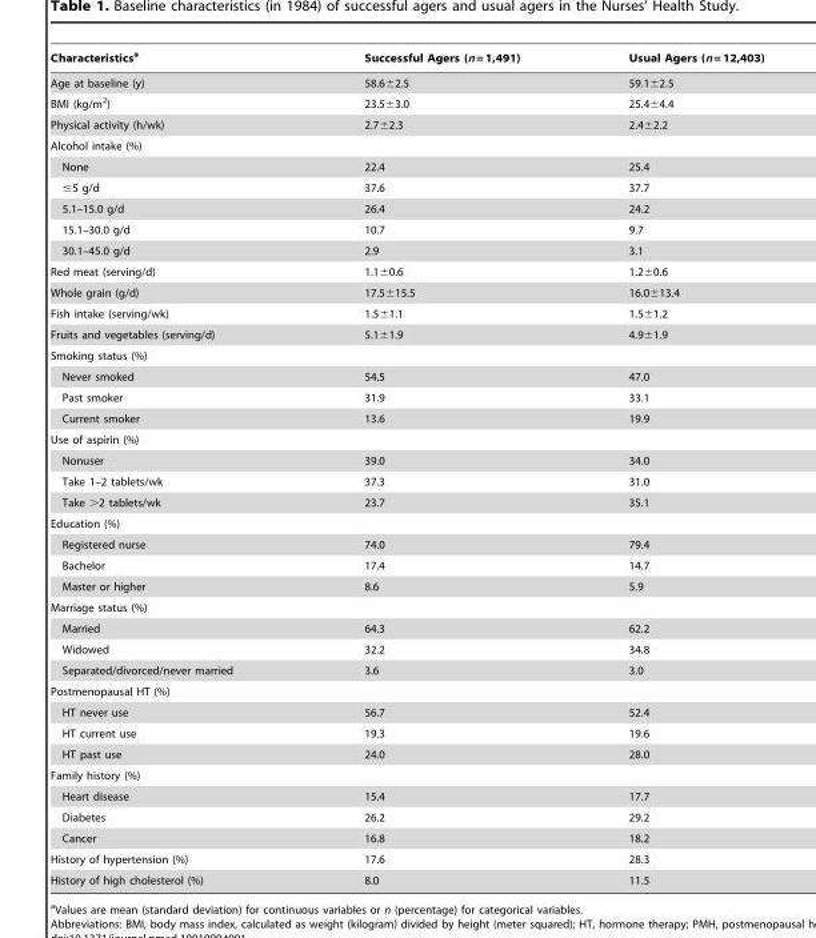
<table><thead><tr><td>Characteristics<sup>a</sup></td><td>Successful Agers (n = 1,491)</td><td>Usual Agers (n = 12,403)</td></tr></thead><tbody><tr><td>Age at baseline (y)</td><td>58.6±2.5</td><td>59.1±2.5</td></tr><tr><td>BMI (kg/m<sup>2</sup>)</td><td>23.5±3.0</td><td>25.4±4.4</td></tr><tr><td>Physical activity (h/wk)</td><td>2.7±2.3</td><td>2.4±2.2</td></tr><tr><td colspan="3">Alcohol intake (%)</td></tr><tr><td>None</td><td>22.4</td><td>25.4</td></tr><tr><td>≤5 g/d</td><td>37.6</td><td>37.7</td></tr><tr><td>5.1–15.0 g/d</td><td>26.4</td><td>24.2</td></tr><tr><td>15.1–30.0 g/d</td><td>10.7</td><td>9.7</td></tr><tr><td>30.1–45.0 g/d</td><td>2.9</td><td>3.1</td></tr><tr><td>Red meat (serving/d)</td><td>1.1±0.6</td><td>1.2±0.6</td></tr><tr><td>Whole grain (g/d)</td><td>17.5±15.5</td><td>16.0±13.4</td></tr><tr><td>Fish intake (serving/wk)</td><td>1.5±1.1</td><td>1.5±1.2</td></tr><tr><td>Fruits and vegetables (serving/d)</td><td>5.1±1.9</td><td>4.9±1.9</td></tr><tr><td colspan="3">Smoking status (%)</td></tr><tr><td>Never smoked</td><td>54.5</td><td>47.0</td></tr><tr><td>Past smoker</td><td>31.9</td><td>33.1</td></tr><tr><td>Current smoker</td><td>13.6</td><td>19.9</td></tr><tr><td colspan="3">Use of aspirin (%)</td></tr><tr><td>Nonuser</td><td>39.0</td><td>34.0</td></tr><tr><td>Take 1–2 tablets/wk</td><td>37.3</td><td>31.0</td></tr><tr><td>Take &gt;2 tablets/wk</td><td>23.7</td><td>35.1</td></tr><tr><td colspan="3">Education (%)</td></tr><tr><td>Registered nurse</td><td>74.0</td><td>79.4</td></tr><tr><td>Bachelor</td><td>17.4</td><td>14.7</td></tr><tr><td>Master or higher</td><td>8.6</td><td>5.9</td></tr><tr><td colspan="3">Marriage status (%)</td></tr><tr><td>Married</td><td>64.3</td><td>62.2</td></tr><tr><td>Widowed</td><td>32.2</td><td>34.8</td></tr><tr><td>Separated/divorced/never married</td><td>3.6</td><td>3.0</td></tr><tr><td colspan="3">Postmenopausal HT (%)</td></tr><tr><td>HT never use</td><td>56.7</td><td>52.4</td></tr><tr><td>HT current use</td><td>19.3</td><td>19.6</td></tr><tr><td>HT past use</td><td>24.0</td><td>28.0</td></tr><tr><td colspan="3">Family history (%)</td></tr><tr><td>Heart disease</td><td>15.4</td><td>17.7</td></tr><tr><td>Diabetes</td><td>26.2</td><td>29.2</td></tr><tr><td>Cancer</td><td>16.8</td><td>18.2</td></tr><tr><td>History of hypertension (%)</td><td>17.6</td><td>28.3</td></tr><tr><td>History of high cholesterol (%)</td><td>8.0</td><td>11.5</td></tr></tbody></table>